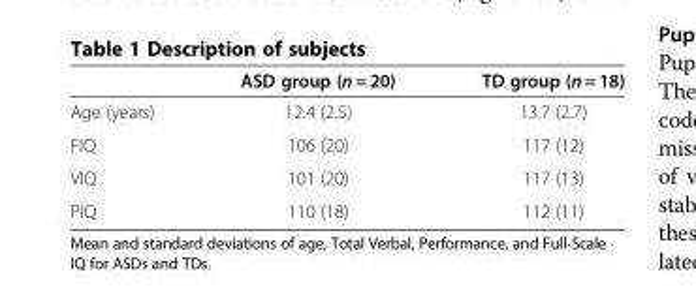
<table><thead><tr><td></td><td>ASD group (n = 20)</td><td>TD group (n = 18)</td></tr></thead><tbody><tr><td>Age (years)</td><td>12.4 (2.5)</td><td>13.7 (2.7)</td></tr><tr><td>FIQ</td><td>106 (20)</td><td>117 (12)</td></tr><tr><td>VIQ</td><td>101 (20)</td><td>117 (13)</td></tr><tr><td>PIQ</td><td>110 (18)</td><td>112 (11)</td></tr></tbody></table>